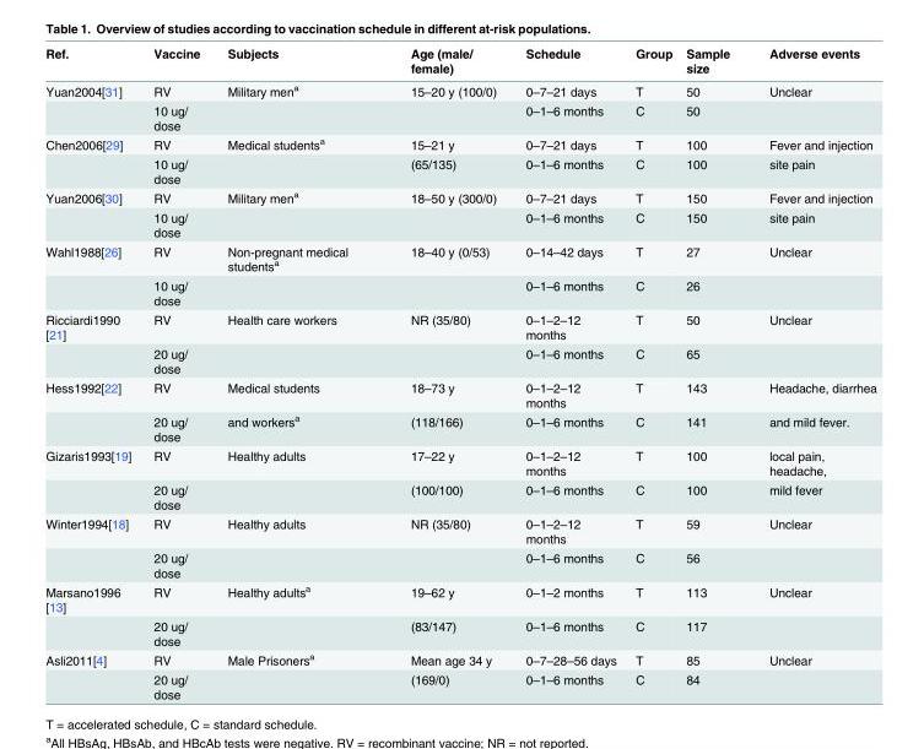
<table><thead><tr><td>Ref.</td><td>Vaccine</td><td>Subjects</td><td>Age (male/ female)</td><td>Schedule</td><td>Group</td><td>Sample size</td><td>Adverse events</td></tr></thead><tbody><tr><td rowspan="2">Yuan2004[31]</td><td>RV</td><td>Military men<sup>a</sup></td><td>15–20 y (100/0)</td><td>0–7–21 days</td><td>T</td><td>50</td><td>Unclear</td></tr><tr><td>10 ug/ dose</td><td></td><td></td><td>0–1–6 months</td><td>C</td><td>50</td><td></td></tr><tr><td rowspan="2">Chen2006[29]</td><td>RV</td><td>Medical students<sup>a</sup></td><td>15–21 y</td><td>0–7–21 days</td><td>T</td><td>100</td><td>Fever and injection</td></tr><tr><td>10 ug/ dose</td><td></td><td>(65/135)</td><td>0–1–6 months</td><td>C</td><td>100</td><td>site pain</td></tr><tr><td rowspan="2">Yuan2006[30]</td><td>RV</td><td>Military men<sup>a</sup></td><td>18–50 y (300/0)</td><td>0–7–21 days</td><td>T</td><td>150</td><td>Fever and injection</td></tr><tr><td>10 ug/ dose</td><td></td><td></td><td>0–1–6 months</td><td>C</td><td>150</td><td>site pain</td></tr><tr><td rowspan="2">Wahl1988[26]</td><td>RV</td><td>Non-pregnant medical students<sup>a</sup></td><td>18–40 y (0/53)</td><td>0–14–42 days</td><td>T</td><td>27</td><td>Unclear</td></tr><tr><td>10 ug/ dose</td><td></td><td></td><td>0–1–6 months</td><td>C</td><td>26</td><td></td></tr><tr><td rowspan="2">Ricciardi1990 [21]</td><td>RV</td><td>Health care workers</td><td>NR (35/80)</td><td>0–1–2–12 months</td><td>T</td><td>50</td><td>Unclear</td></tr><tr><td>20 ug/ dose</td><td></td><td></td><td>0–1–6 months</td><td>C</td><td>65</td><td></td></tr><tr><td rowspan="2">Hess1992[22]</td><td>RV</td><td>Medical students</td><td>18–73 y</td><td>0–1–2–12 months</td><td>T</td><td>143</td><td>Headache, diarrhea</td></tr><tr><td>20 ug/ dose</td><td>and workers<sup>a</sup></td><td>(118/166)</td><td>0–1–6 months</td><td>C</td><td>141</td><td>and mild fever.</td></tr><tr><td rowspan="2">Gizaris1993[19]</td><td>RV</td><td>Healthy adults</td><td>17–22 y</td><td>0–1–2–12 months</td><td>T</td><td>100</td><td>local pain, headache,</td></tr><tr><td>20 ug/ dose</td><td></td><td>(100/100)</td><td>0–1–6 months</td><td>C</td><td>100</td><td>mild fever</td></tr><tr><td rowspan="2">Winter1994[18]</td><td>RV</td><td>Healthy adults</td><td>NR (35/80)</td><td>0–1–2–12 months</td><td>T</td><td>59</td><td>Unclear</td></tr><tr><td>20 ug/ dose</td><td></td><td></td><td>0–1–6 months</td><td>C</td><td>56</td><td></td></tr><tr><td rowspan="2">Marsano1996 [13]</td><td>RV</td><td>Healthy adults<sup>a</sup></td><td>19–62 y</td><td>0–1–2 months</td><td>T</td><td>113</td><td>Unclear</td></tr><tr><td>20 ug/ dose</td><td></td><td>(83/147)</td><td>0–1–6 months</td><td>C</td><td>117</td><td></td></tr><tr><td rowspan="2">Asli2011[4]</td><td>RV</td><td>Male Prisoners<sup>a</sup></td><td>Mean age 34 y</td><td>0–7–28–56 days</td><td>T</td><td>85</td><td>Unclear</td></tr><tr><td>20 ug/ dose</td><td></td><td>(169/0)</td><td>0–1–6 months</td><td>C</td><td>84</td><td></td></tr></tbody></table>